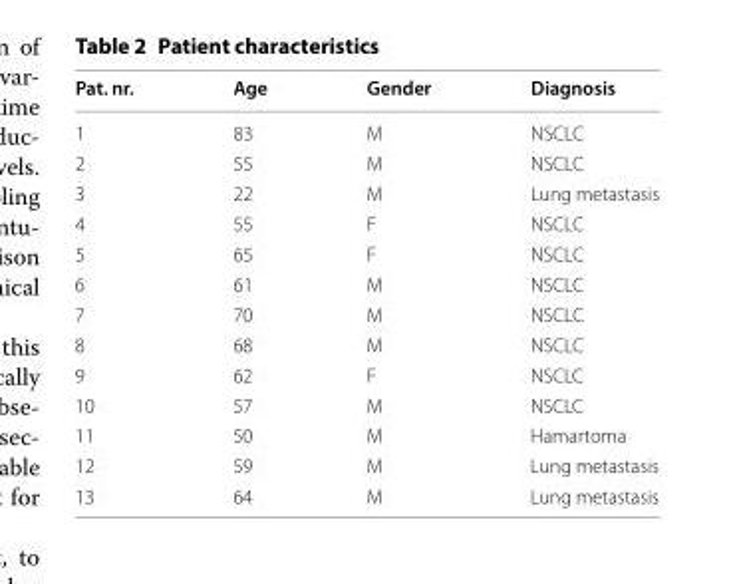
<table><thead><tr><td>Pat. nr.</td><td>Age</td><td>Gender</td><td>Diagnosis</td></tr></thead><tbody><tr><td>1</td><td>83</td><td>M</td><td>NSCLC</td></tr><tr><td>2</td><td>55</td><td>M</td><td>NSCLC</td></tr><tr><td>3</td><td>22</td><td>M</td><td>Lung metastasis</td></tr><tr><td>4</td><td>55</td><td>F</td><td>NSCLC</td></tr><tr><td>5</td><td>65</td><td>F</td><td>NSCLC</td></tr><tr><td>6</td><td>61</td><td>M</td><td>NSCLC</td></tr><tr><td>7</td><td>70</td><td>M</td><td>NSCLC</td></tr><tr><td>8</td><td>68</td><td>M</td><td>NSCLC</td></tr><tr><td>9</td><td>62</td><td>F</td><td>NSCLC</td></tr><tr><td>10</td><td>57</td><td>M</td><td>NSCLC</td></tr><tr><td>11</td><td>50</td><td>M</td><td>Hamartoma</td></tr><tr><td>12</td><td>59</td><td>M</td><td>Lung metastasis</td></tr><tr><td>13</td><td>64</td><td>M</td><td>Lung metastasis</td></tr></tbody></table>